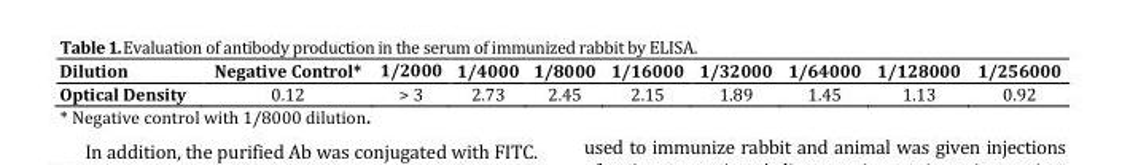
<table><thead><tr><td>Dilution</td><td>Negative Control*</td><td>1/2000</td><td>1/4000</td><td>1/8000</td><td>1/16000</td><td>1/32000</td><td>1/64000</td><td>1/128000</td><td>1/256000</td></tr></thead><tbody><tr><td>Optical Density</td><td>0.12</td><td>&gt; 3</td><td>2.73</td><td>2.45</td><td>2.15</td><td>1.89</td><td>1.45</td><td>1.13</td><td>0.92</td></tr></tbody></table>